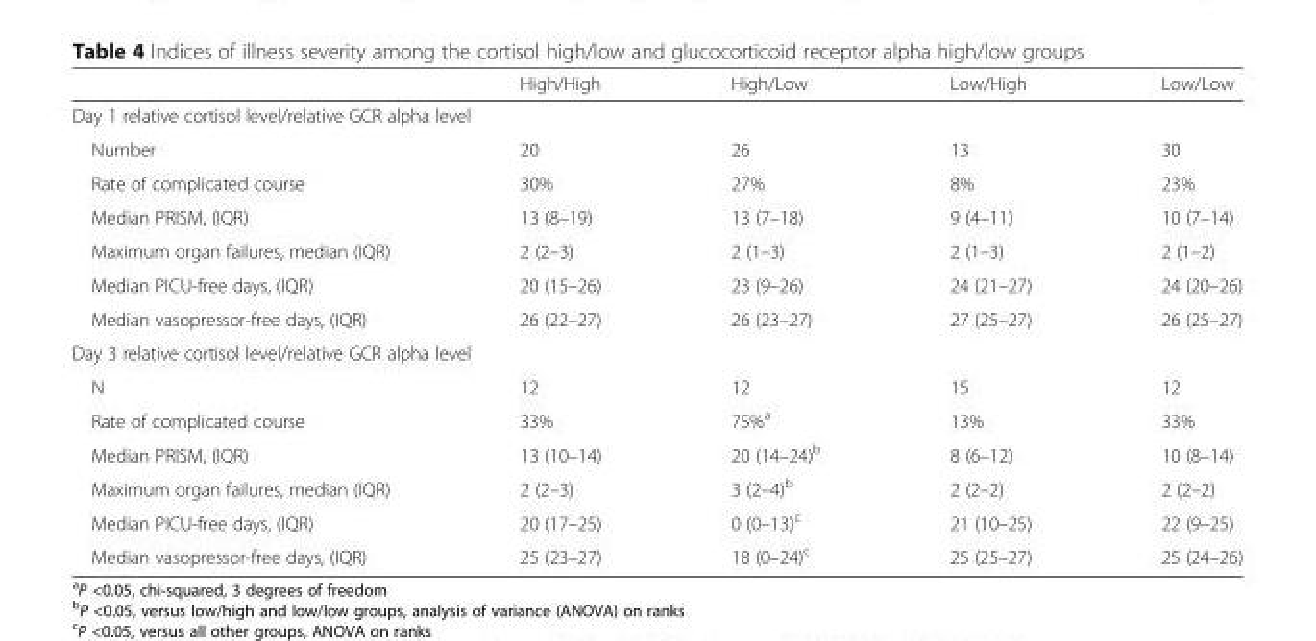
<table><thead><tr><td></td><td>High/High</td><td>High/Low</td><td>Low/High</td><td>Low/Low</td></tr></thead><tbody><tr><td colspan="5">Day 1 relative cortisol level/relative GCR alpha level</td></tr><tr><td>Number</td><td>20</td><td>26</td><td>13</td><td>30</td></tr><tr><td>Rate of complicated course</td><td>30%</td><td>27%</td><td>8%</td><td>23%</td></tr><tr><td>Median PRISM, (IQR)</td><td>13 (8–19)</td><td>13 (7–18)</td><td>9 (4–11)</td><td>10 (7–14)</td></tr><tr><td>Maximum organ failures, median (IQR)</td><td>2 (2–3)</td><td>2 (1–3)</td><td>2 (1–3)</td><td>2 (1–2)</td></tr><tr><td>Median PICU-free days, (IQR)</td><td>20 (15–26)</td><td>23 (9–26)</td><td>24 (21–27)</td><td>24 (20–26)</td></tr><tr><td>Median vasopressor-free days, (IQR)</td><td>26 (22–27)</td><td>26 (23–27)</td><td>27 (25–27)</td><td>26 (25–27)</td></tr><tr><td colspan="5">Day 3 relative cortisol level/relative GCR alpha level</td></tr><tr><td>N</td><td>12</td><td>12</td><td>15</td><td>12</td></tr><tr><td>Rate of complicated course</td><td>33%</td><td>75%<sup>a</sup></td><td>13%</td><td>33%</td></tr><tr><td>Median PRISM, (IQR)</td><td>13 (10–14)</td><td>20 (14–24)<sup>b</sup></td><td>8 (6–12)</td><td>10 (8–14)</td></tr><tr><td>Maximum organ failures, median (IQR)</td><td>2 (2–3)</td><td>3 (2–4)<sup>b</sup></td><td>2 (2–2)</td><td>2 (2–2)</td></tr><tr><td>Median PICU-free days, (IQR)</td><td>20 (17–25)</td><td>0 (0–13)<sup>c</sup></td><td>21 (10–25)</td><td>22 (9–25)</td></tr><tr><td>Median vasopressor-free days, (IQR)</td><td>25 (23–27)</td><td>18 (0–24)<sup>c</sup></td><td>25 (25–27)</td><td>25 (24–26)</td></tr></tbody></table>